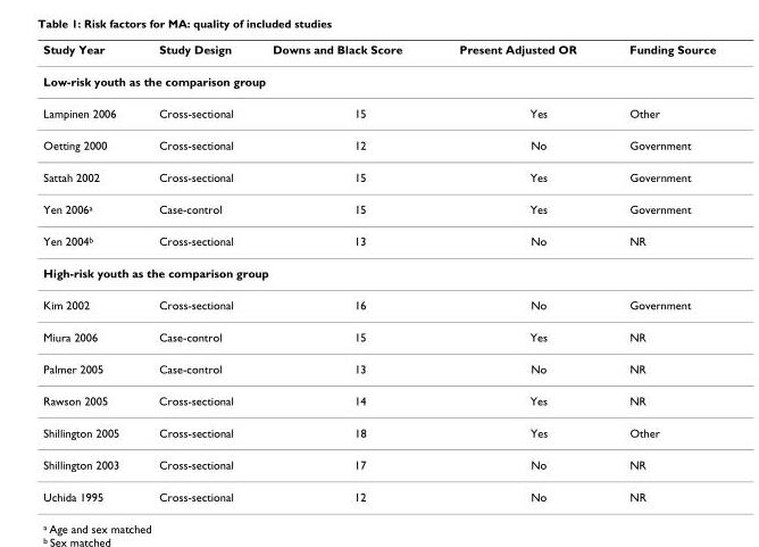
<table><thead><tr><td>Study Year</td><td>Study Design</td><td>Downs and Black Score</td><td>Present Adjusted OR</td><td>Funding Source</td></tr></thead><tbody><tr><td colspan="5">Low-risk youth as the comparison group</td></tr><tr><td>Lampinen 2006</td><td>Cross-sectional</td><td>15</td><td>Yes</td><td>Other</td></tr><tr><td>Oetting 2000</td><td>Cross-sectional</td><td>12</td><td>No</td><td>Government</td></tr><tr><td>Sattah 2002</td><td>Cross-sectional</td><td>15</td><td>Yes</td><td>Government</td></tr><tr><td>Yen 2006<sup>a</sup></td><td>Case-control</td><td>15</td><td>Yes</td><td>Government</td></tr><tr><td>Yen 2004<sup>b</sup></td><td>Cross-sectional</td><td>13</td><td>No</td><td>NR</td></tr><tr><td colspan="5">High-risk youth as the comparison group</td></tr><tr><td>Kim 2002</td><td>Cross-sectional</td><td>16</td><td>No</td><td>Government</td></tr><tr><td>Miura 2006</td><td>Case-control</td><td>15</td><td>Yes</td><td>NR</td></tr><tr><td>Palmer 2005</td><td>Case-control</td><td>13</td><td>No</td><td>NR</td></tr><tr><td>Rawson 2005</td><td>Cross-sectional</td><td>14</td><td>Yes</td><td>NR</td></tr><tr><td>Shillington 2005</td><td>Cross-sectional</td><td>18</td><td>Yes</td><td>Other</td></tr><tr><td>Shillington 2003</td><td>Cross-sectional</td><td>17</td><td>No</td><td>NR</td></tr><tr><td>Uchida 1995</td><td>Cross-sectional</td><td>12</td><td>No</td><td>NR</td></tr></tbody></table>